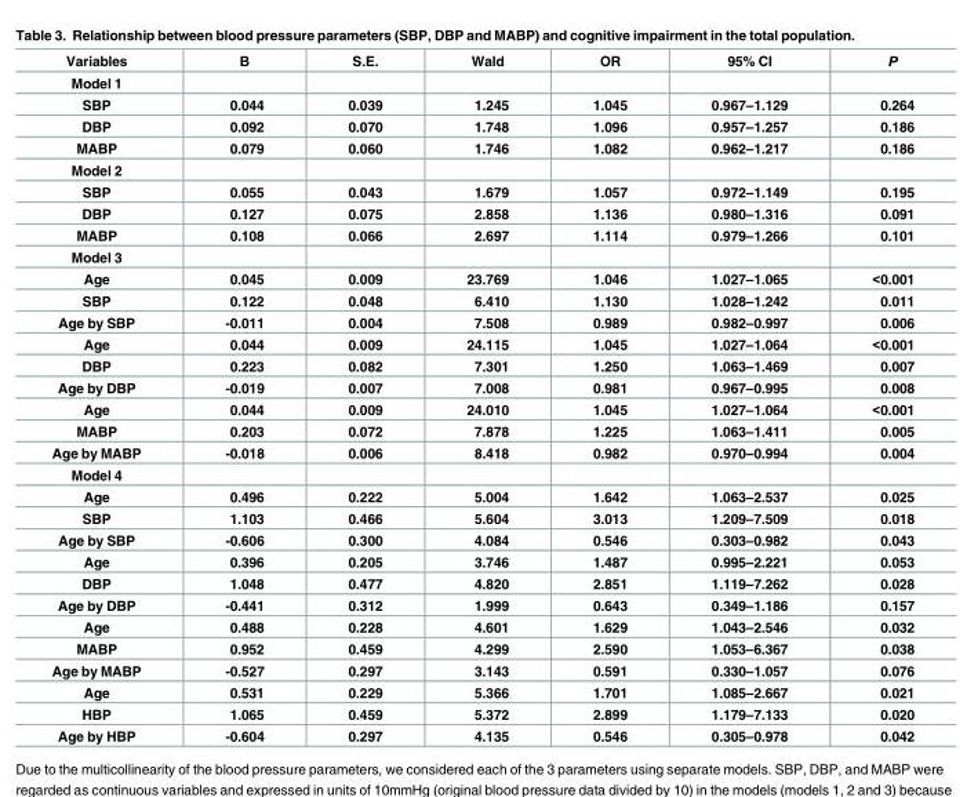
<table><thead><tr><td>Variables</td><td>Β</td><td>S.E.</td><td>Wald</td><td>OR</td><td>95% CI</td><td>P</td></tr></thead><tbody><tr><td colspan="7">Model 1</td></tr><tr><td>SBP</td><td>0.044</td><td>0.039</td><td>1.245</td><td>1.045</td><td>0.967–1.129</td><td>0.264</td></tr><tr><td>DBP</td><td>0.092</td><td>0.070</td><td>1.748</td><td>1.096</td><td>0.957–1.257</td><td>0.186</td></tr><tr><td>MABP</td><td>0.079</td><td>0.060</td><td>1.746</td><td>1.082</td><td>0.962–1.217</td><td>0.186</td></tr><tr><td colspan="7">Model 2</td></tr><tr><td>SBP</td><td>0.055</td><td>0.043</td><td>1.679</td><td>1.057</td><td>0.972–1.149</td><td>0.195</td></tr><tr><td>DBP</td><td>0.127</td><td>0.075</td><td>2.858</td><td>1.136</td><td>0.980–1.316</td><td>0.091</td></tr><tr><td>MABP</td><td>0.108</td><td>0.066</td><td>2.697</td><td>1.114</td><td>0.979–1.266</td><td>0.101</td></tr><tr><td colspan="7">Model 3</td></tr><tr><td>Age</td><td>0.045</td><td>0.009</td><td>23.769</td><td>1.046</td><td>1.027–1.065</td><td>&lt;0.001</td></tr><tr><td>SBP</td><td>0.122</td><td>0.048</td><td>6.410</td><td>1.130</td><td>1.028–1.242</td><td>0.011</td></tr><tr><td>Age by SBP</td><td>-0.011</td><td>0.004</td><td>7.508</td><td>0.989</td><td>0.982–0.997</td><td>0.006</td></tr><tr><td>Age</td><td>0.044</td><td>0.009</td><td>24.115</td><td>1.045</td><td>1.027–1.064</td><td>&lt;0.001</td></tr><tr><td>DBP</td><td>0.223</td><td>0.082</td><td>7.301</td><td>1.250</td><td>1.063–1.469</td><td>0.007</td></tr><tr><td>Age by DBP</td><td>-0.019</td><td>0.007</td><td>7.008</td><td>0.981</td><td>0.967–0.995</td><td>0.008</td></tr><tr><td>Age</td><td>0.044</td><td>0.009</td><td>24.010</td><td>1.045</td><td>1.027–1.064</td><td>&lt;0.001</td></tr><tr><td>MABP</td><td>0.203</td><td>0.072</td><td>7.878</td><td>1.225</td><td>1.063–1.411</td><td>0.005</td></tr><tr><td>Age by MABP</td><td>-0.018</td><td>0.006</td><td>8.418</td><td>0.982</td><td>0.970–0.994</td><td>0.004</td></tr><tr><td colspan="7">Model 4</td></tr><tr><td>Age</td><td>0.496</td><td>0.222</td><td>5.004</td><td>1.642</td><td>1.063–2.537</td><td>0.025</td></tr><tr><td>SBP</td><td>1.103</td><td>0.466</td><td>5.604</td><td>3.013</td><td>1.209–7.509</td><td>0.018</td></tr><tr><td>Age by SBP</td><td>-0.606</td><td>0.300</td><td>4.084</td><td>0.546</td><td>0.303–0.982</td><td>0.043</td></tr><tr><td>Age</td><td>0.396</td><td>0.205</td><td>3.746</td><td>1.487</td><td>0.995–2.221</td><td>0.053</td></tr><tr><td>DBP</td><td>1.048</td><td>0.477</td><td>4.820</td><td>2.851</td><td>1.119–7.262</td><td>0.028</td></tr><tr><td>Age by DBP</td><td>-0.441</td><td>0.312</td><td>1.999</td><td>0.643</td><td>0.349–1.186</td><td>0.157</td></tr><tr><td>Age</td><td>0.488</td><td>0.228</td><td>4.601</td><td>1.629</td><td>1.043–2.546</td><td>0.032</td></tr><tr><td>MABP</td><td>0.952</td><td>0.459</td><td>4.299</td><td>2.590</td><td>1.053–6.367</td><td>0.038</td></tr><tr><td>Age by MABP</td><td>-0.527</td><td>0.297</td><td>3.143</td><td>0.591</td><td>0.330–1.057</td><td>0.076</td></tr><tr><td>Age</td><td>0.531</td><td>0.229</td><td>5.366</td><td>1.701</td><td>1.085–2.667</td><td>0.021</td></tr><tr><td>HBP</td><td>1.065</td><td>0.459</td><td>5.372</td><td>2.899</td><td>1.179–7.133</td><td>0.020</td></tr><tr><td>Age by HBP</td><td>-0.604</td><td>0.297</td><td>4.135</td><td>0.546</td><td>0.305–0.978</td><td>0.042</td></tr></tbody></table>